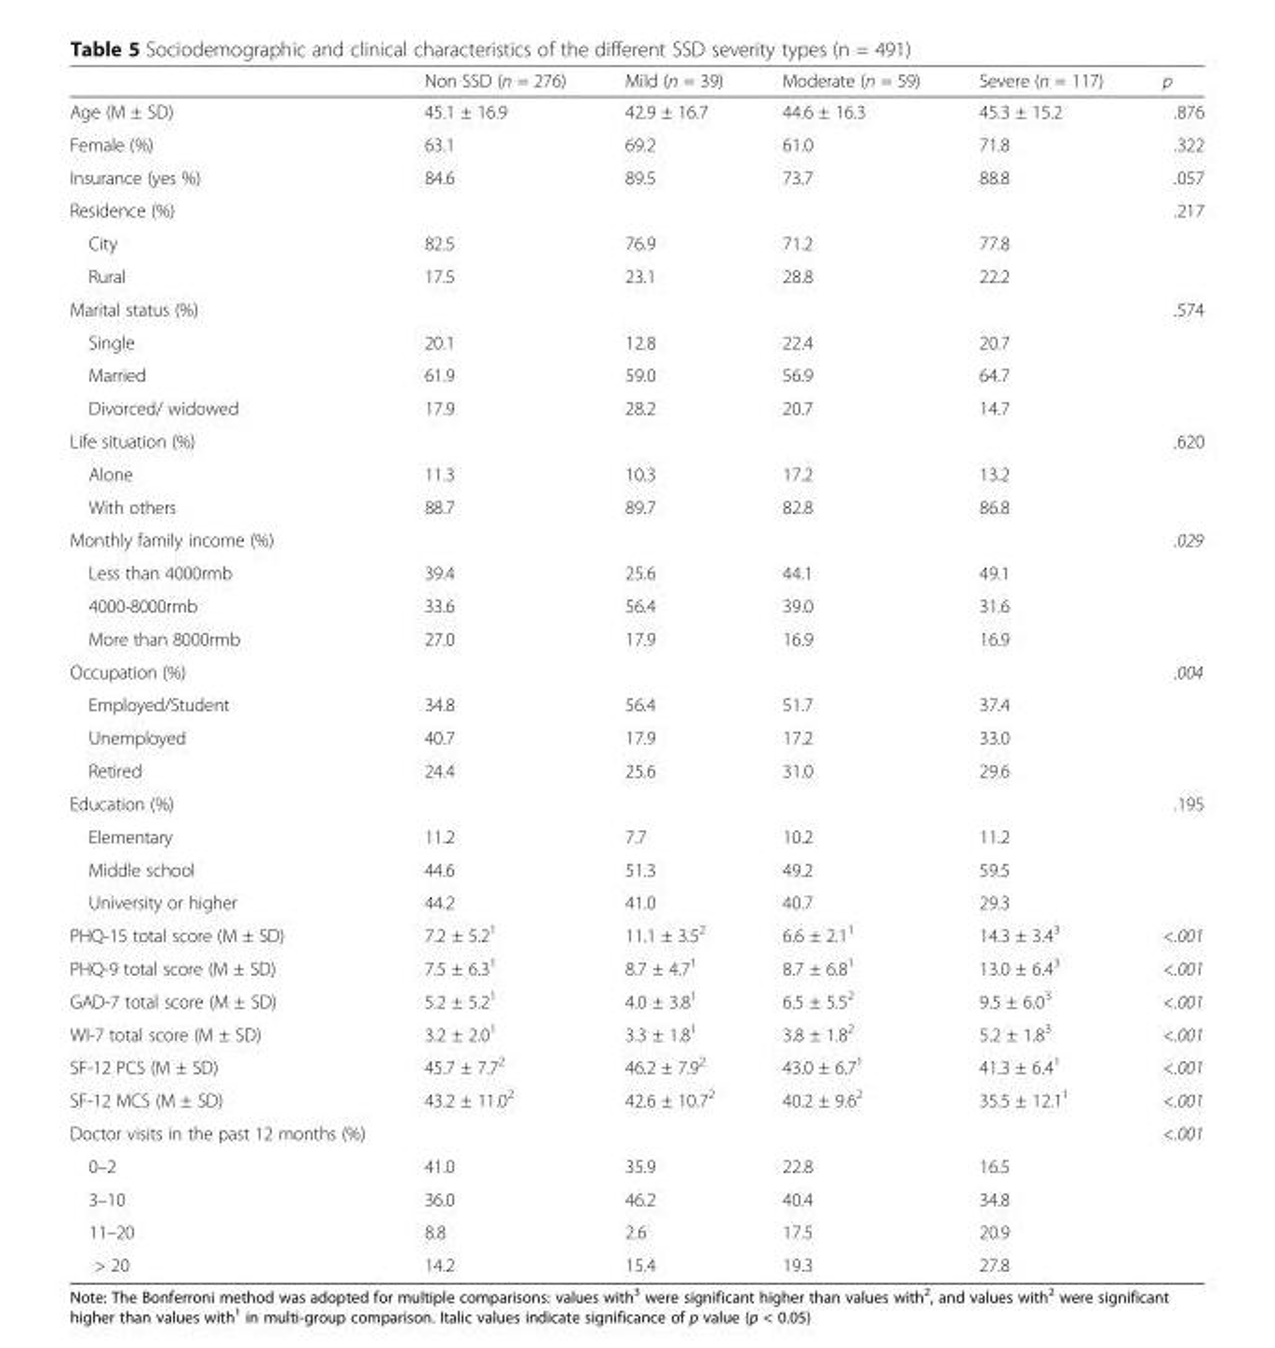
<table><thead><tr><td></td><td>Non SSD (n = 276)</td><td>Mild (n = 39)</td><td>Moderate (n = 59)</td><td>Severe (n = 117)</td><td>p</td></tr></thead><tbody><tr><td>Age (M ± SD)</td><td>45.1 ± 16.9</td><td>42.9 ± 16.7</td><td>44.6 ± 16.3</td><td>45.3 ± 15.2</td><td>.876</td></tr><tr><td>Female (%)</td><td>63.1</td><td>69.2</td><td>61.0</td><td>71.8</td><td>.322</td></tr><tr><td>Insurance (yes %)</td><td>84.6</td><td>89.5</td><td>73.7</td><td>88.8</td><td>.057</td></tr><tr><td>Residence (%)</td><td></td><td></td><td></td><td></td><td>.217</td></tr><tr><td>City</td><td>82.5</td><td>76.9</td><td>71.2</td><td>77.8</td><td></td></tr><tr><td>Rural</td><td>17.5</td><td>23.1</td><td>28.8</td><td>22.2</td><td></td></tr><tr><td>Marital status (%)</td><td></td><td></td><td></td><td></td><td>.574</td></tr><tr><td>Single</td><td>20.1</td><td>12.8</td><td>22.4</td><td>20.7</td><td></td></tr><tr><td>Married</td><td>61.9</td><td>59.0</td><td>56.9</td><td>64.7</td><td></td></tr><tr><td>Divorced/ widowed</td><td>17.9</td><td>28.2</td><td>20.7</td><td>14.7</td><td></td></tr><tr><td>Life situation (%)</td><td></td><td></td><td></td><td></td><td>.620</td></tr><tr><td>Alone</td><td>11.3</td><td>10.3</td><td>17.2</td><td>13.2</td><td></td></tr><tr><td>With others</td><td>88.7</td><td>89.7</td><td>82.8</td><td>86.8</td><td></td></tr><tr><td>Monthly family income (%)</td><td></td><td></td><td></td><td></td><td>.029</td></tr><tr><td>Less than 4000rmb</td><td>39.4</td><td>25.6</td><td>44.1</td><td>49.1</td><td></td></tr><tr><td>4000-8000rmb</td><td>33.6</td><td>56.4</td><td>39.0</td><td>31.6</td><td></td></tr><tr><td>More than 8000rmb</td><td>27.0</td><td>17.9</td><td>16.9</td><td>16.9</td><td></td></tr><tr><td>Occupation (%)</td><td></td><td></td><td></td><td></td><td>.004</td></tr><tr><td>Employed/Student</td><td>34.8</td><td>56.4</td><td>51.7</td><td>37.4</td><td></td></tr><tr><td>Unemployed</td><td>40.7</td><td>17.9</td><td>17.2</td><td>33.0</td><td></td></tr><tr><td>Retired</td><td>24.4</td><td>25.6</td><td>31.0</td><td>29.6</td><td></td></tr><tr><td>Education (%)</td><td></td><td></td><td></td><td></td><td>.195</td></tr><tr><td>Elementary</td><td>11.2</td><td>7.7</td><td>10.2</td><td>11.2</td><td></td></tr><tr><td>Middle school</td><td>44.6</td><td>51.3</td><td>49.2</td><td>59.5</td><td></td></tr><tr><td>University or higher</td><td>44.2</td><td>41.0</td><td>40.7</td><td>29.3</td><td></td></tr><tr><td>PHQ-15 total score (M ± SD)</td><td>7.2 ± 5.2<sup>1</sup></td><td>11.1 ± 3.5<sup>2</sup></td><td>6.6 ± 2.1<sup>1</sup></td><td>14.3 ± 3.4<sup>3</sup></td><td>&lt;.001</td></tr><tr><td>PHQ-9 total score (M ± SD)</td><td>7.5 ± 6.3<sup>1</sup></td><td>8.7 ± 4.7<sup>1</sup></td><td>8.7 ± 6.8<sup>1</sup></td><td>13.0 ± 6.4<sup>3</sup></td><td>&lt;.001</td></tr><tr><td>GAD-7 total score (M ± SD)</td><td>5.2 ± 5.2<sup>1</sup></td><td>4.0 ± 3.8<sup>1</sup></td><td>6.5 ± 5.5<sup>2</sup></td><td>9.5 ± 6.0<sup>3</sup></td><td>&lt;.001</td></tr><tr><td>WI-7 total score (M ± SD)</td><td>3.2 ± 2.0<sup>1</sup></td><td>3.3 ± 1.8<sup>1</sup></td><td>3.8 ± 1.8<sup>2</sup></td><td>5.2 ± 1.8<sup>3</sup></td><td>&lt;.001</td></tr><tr><td>SF-12 PCS (M ± SD)</td><td>45.7 ± 7.7<sup>2</sup></td><td>46.2 ± 7.9<sup>2</sup></td><td>43.0 ± 6.7<sup>1</sup></td><td>41.3 ± 6.4<sup>1</sup></td><td>&lt;.001</td></tr><tr><td>SF-12 MCS (M ± SD)</td><td>43.2 ± 11.0<sup>2</sup></td><td>42.6 ± 10.7<sup>2</sup></td><td>40.2 ± 9.6<sup>2</sup></td><td>35.5 ± 12.1<sup>1</sup></td><td>&lt;.001</td></tr><tr><td>Doctor visits in the past 12 months (%)</td><td></td><td></td><td></td><td></td><td>&lt;.001</td></tr><tr><td>0–2</td><td>41.0</td><td>35.9</td><td>22.8</td><td>16.5</td><td></td></tr><tr><td>3–10</td><td>36.0</td><td>46.2</td><td>40.4</td><td>34.8</td><td></td></tr><tr><td>11–20</td><td>8.8</td><td>2.6</td><td>17.5</td><td>20.9</td><td></td></tr><tr><td>&gt; 20</td><td>14.2</td><td>15.4</td><td>19.3</td><td>27.8</td><td></td></tr></tbody></table>